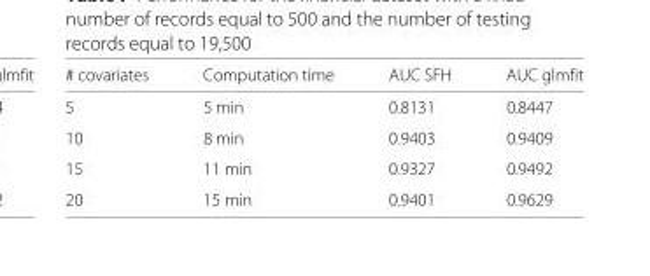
<table><thead><tr><td># covariates</td><td>Computation time</td><td>AUC SFH</td><td>AUC glmfit</td></tr></thead><tbody><tr><td>5</td><td>5 min</td><td>0.8131</td><td>0.8447</td></tr><tr><td>10</td><td>8 min</td><td>0.9403</td><td>0.9409</td></tr><tr><td>15</td><td>11 min</td><td>0.9327</td><td>0.9492</td></tr><tr><td>20</td><td>15 min</td><td>0.9401</td><td>0.9629</td></tr></tbody></table>